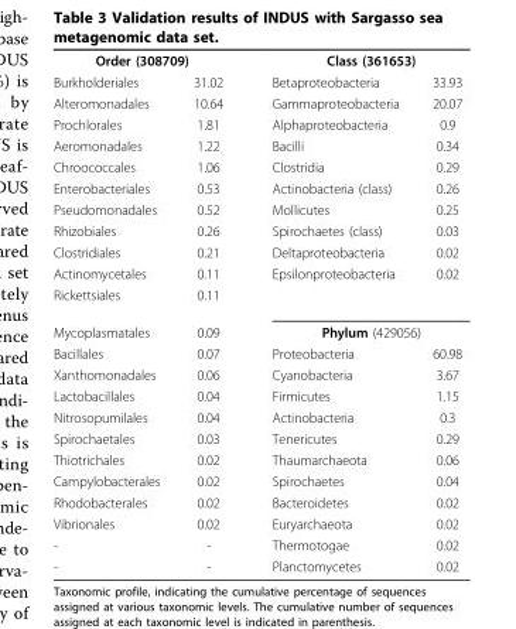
<table><tbody><tr><td colspan="2">Order (308709)</td><td colspan="2">Class (361653)</td></tr><tr><td>Burkholderiales</td><td>31.02</td><td>Betaproteobacteria</td><td>33.93</td></tr><tr><td>Alteromonadales</td><td>10.64</td><td>Gammaproteobacteria</td><td>20.07</td></tr><tr><td>Prochlorales</td><td>1.81</td><td>Alphaproteobacteria</td><td>0.9</td></tr><tr><td>Aeromonadales</td><td>1.22</td><td>Bacilli</td><td>0.34</td></tr><tr><td>Chroococcales</td><td>1.06</td><td>Clostridia</td><td>0.29</td></tr><tr><td>Enterobacteriales</td><td>0.53</td><td>Actinobacteria (class)</td><td>0.26</td></tr><tr><td>Pseudomonadales</td><td>0.52</td><td>Mollicutes</td><td>0.25</td></tr><tr><td>Rhizobiales</td><td>0.26</td><td>Spirochaetes (class)</td><td>0.03</td></tr><tr><td>Clostridiales</td><td>0.21</td><td>Deltaproteobacteria</td><td>0.02</td></tr><tr><td>Actinomycetales</td><td>0.11</td><td>Epsilonproteobacteria</td><td>0.02</td></tr><tr><td>Rickettsiales</td><td>0.11</td><td></td><td></td></tr><tr><td>Mycoplasmatales</td><td>0.09</td><td colspan="2">Phylum (429056)</td></tr><tr><td>Bacillales</td><td>0.07</td><td>Proteobacteria</td><td>60.98</td></tr><tr><td>Xanthomonadales</td><td>0.06</td><td>Cyanobacteria</td><td>3.67</td></tr><tr><td>Lactobacillales</td><td>0.04</td><td>Firmicutes</td><td>1.15</td></tr><tr><td>Nitrosopumilales</td><td>0.04</td><td>Actinobacteria</td><td>0.3</td></tr><tr><td>Spirochaetales</td><td>0.03</td><td>Tenericutes</td><td>0.29</td></tr><tr><td>Thiotrichales</td><td>0.02</td><td>Thaumarchaeota</td><td>0.06</td></tr><tr><td>Campylobacterales</td><td>0.02</td><td>Spirochaetes</td><td>0.04</td></tr><tr><td>Rhodobacterales</td><td>0.02</td><td>Bacteroidetes</td><td>0.02</td></tr><tr><td>Vibrionales</td><td>0.02</td><td>Euryarchaeota</td><td>0.02</td></tr><tr><td>-</td><td>-</td><td>Thermotogae</td><td>0.02</td></tr><tr><td>-</td><td>-</td><td>Planctomycetes</td><td>0.02</td></tr></tbody></table>